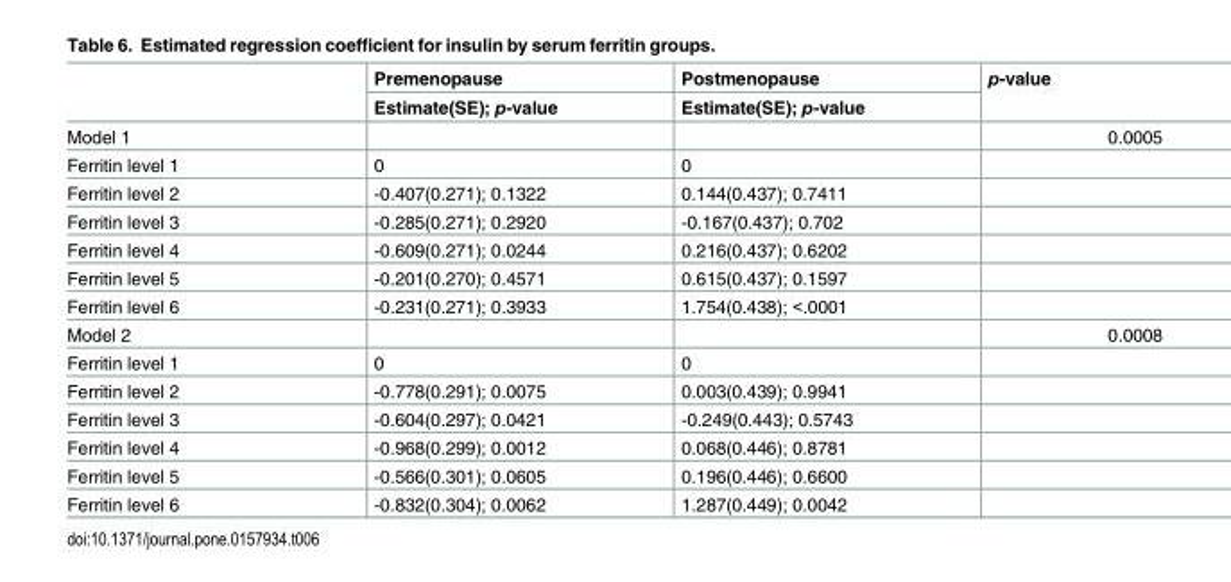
<table><thead><tr><td rowspan="2"></td><td rowspan="2">Premenopause Estimate(SE); p-value</td><td rowspan="2">Postmenopause Estimate(SE); p-value</td><td rowspan="2">p-value</td></tr><tr></tr></thead><tbody><tr><td>Model 1</td><td></td><td></td><td>0.0005</td></tr><tr><td>Ferritin level 1</td><td>0</td><td>0</td><td></td></tr><tr><td>Ferritin level 2</td><td>-0.407(0.271); 0.1322</td><td>0.144(0.437); 0.7411</td><td></td></tr><tr><td>Ferritin level 3</td><td>-0.285(0.271); 0.2920</td><td>-0.167(0.437); 0.702</td><td></td></tr><tr><td>Ferritin level 4</td><td>-0.609(0.271); 0.0244</td><td>0.216(0.437); 0.6202</td><td></td></tr><tr><td>Ferritin level 5</td><td>-0.201(0.270); 0.4571</td><td>0.615(0.437); 0.1597</td><td></td></tr><tr><td>Ferritin level 6</td><td>-0.231(0.271); 0.3933</td><td>1.754(0.438); &lt;.0001</td><td></td></tr><tr><td>Model 2</td><td></td><td></td><td>0.0008</td></tr><tr><td>Ferritin level 1</td><td>0</td><td>0</td><td></td></tr><tr><td>Ferritin level 2</td><td>-0.778(0.291); 0.0075</td><td>0.003(0.439); 0.9941</td><td></td></tr><tr><td>Ferritin level 3</td><td>-0.604(0.297); 0.0421</td><td>-0.249(0.443); 0.5743</td><td></td></tr><tr><td>Ferritin level 4</td><td>-0.968(0.299); 0.0012</td><td>0.068(0.446); 0.8781</td><td></td></tr><tr><td>Ferritin level 5</td><td>-0.566(0.301); 0.0605</td><td>0.196(0.446); 0.6600</td><td></td></tr><tr><td>Ferritin level 6</td><td>-0.832(0.304); 0.0062</td><td>1.287(0.449); 0.0042</td><td></td></tr></tbody></table>